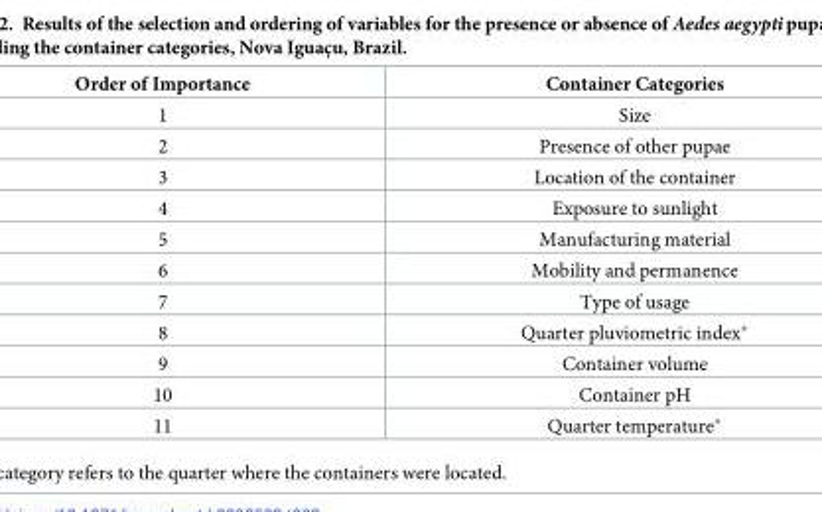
<table><thead><tr><td>Order of Importance</td><td>Container Categories</td></tr></thead><tbody><tr><td>1</td><td>Size</td></tr><tr><td>2</td><td>Presence of other pupae</td></tr><tr><td>3</td><td>Location of the container</td></tr><tr><td>4</td><td>Exposure to sunlight</td></tr><tr><td>5</td><td>Manufacturing material</td></tr><tr><td>6</td><td>Mobility and permanence</td></tr><tr><td>7</td><td>Type of usage</td></tr><tr><td>8</td><td>Quarter pluviometric index*</td></tr><tr><td>9</td><td>Container volume</td></tr><tr><td>10</td><td>Container pH</td></tr><tr><td>11</td><td>Quarter temperature*</td></tr></tbody></table>